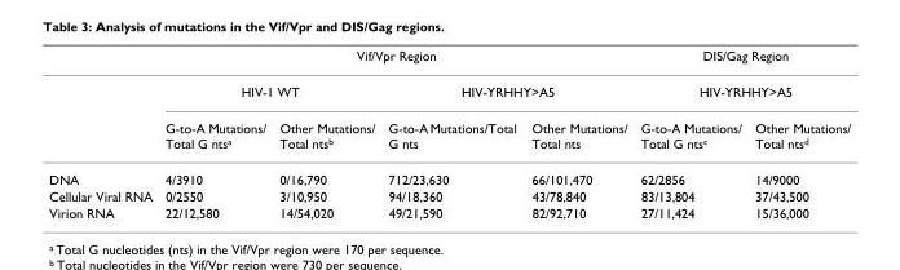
<table><thead><tr><td rowspan="3"></td><td colspan="4">Vif/Vpr Region</td><td rowspan="2" colspan="2">DIS/Gag Region HIV-YRHHY&gt;A5</td></tr><tr><td colspan="2">HIV-1 WT</td><td colspan="2">HIV-YRHHY&gt;A5</td></tr><tr><td>G-to-A Mutations/ Total G nts<sup>a</sup></td><td>Other Mutations/ Total nts<sup>b</sup></td><td>G-to-A Mutations/Total G nts</td><td>Other Mutations/ Total nts</td><td>G-to-A Mutations/ Total G nts<sup>c</sup></td><td>Other Mutations/ Total nts<sup>d</sup></td></tr></thead><tbody><tr><td>DNA</td><td>4/3910</td><td>0/16,790</td><td>712/23,630</td><td>66/101,470</td><td>62/2856</td><td>14/9000</td></tr><tr><td>Cellular Viral RNA</td><td>0/2550</td><td>3/10,950</td><td>94/18,360</td><td>43/78,840</td><td>83/13,804</td><td>37/43,500</td></tr><tr><td>Virion RNA</td><td>22/12,580</td><td>14/54,020</td><td>49/21,590</td><td>82/92,710</td><td>27/11,424</td><td>15/36,000</td></tr></tbody></table>